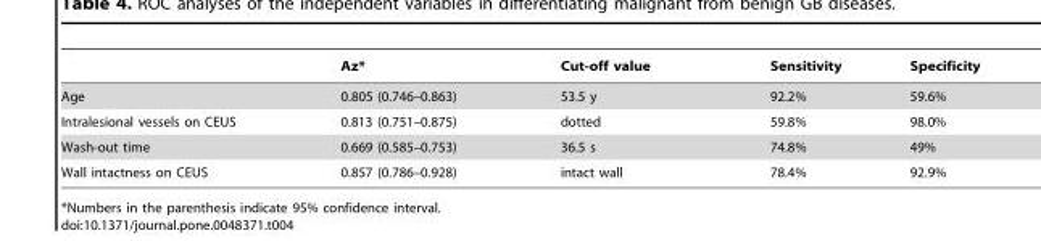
<table><thead><tr><td></td><td>Az*</td><td>Cut-off value</td><td>Sensitivity</td><td>Specificity</td></tr></thead><tbody><tr><td>Age</td><td>0.805 (0.746–0.863)</td><td>53.5 y</td><td>92.2%</td><td>59.6%</td></tr><tr><td>Intralesional vessels on CEUS</td><td>0.813 (0.751–0.875)</td><td>dotted</td><td>59.8%</td><td>98.0%</td></tr><tr><td>Wash-out time</td><td>0.669 (0.585–0.753)</td><td>36.5 s</td><td>74.8%</td><td>49%</td></tr><tr><td>Wall intactness on CEUS</td><td>0.857 (0.786–0.928)</td><td>intact wall</td><td>78.4%</td><td>92.9%</td></tr></tbody></table>